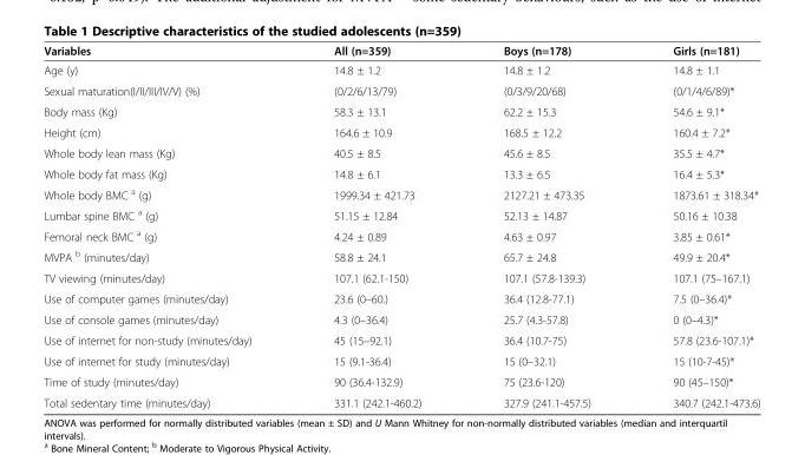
<table><thead><tr><td>Variables</td><td>All (n=359)</td><td>Boys (n=178)</td><td>Girls (n=181)</td></tr></thead><tbody><tr><td>Age (y)</td><td>14.8 ± 1.2</td><td>14.8 ± 1.2</td><td>14.8 ± 1.1</td></tr><tr><td>Sexual maturation(I/II/III/IV/V) (%)</td><td>(0/2/6/13/79)</td><td>(0/3/9/20/68)</td><td>(0/1/4/6/89)*</td></tr><tr><td>Body mass (Kg)</td><td>58.3 ± 13.1</td><td>62.2 ± 15.3</td><td>54.6 ± 9.1*</td></tr><tr><td>Height (cm)</td><td>164.6 ± 10.9</td><td>168.5 ± 12.2</td><td>160.4 ± 7.2*</td></tr><tr><td>Whole body lean mass (Kg)</td><td>40.5 ± 8.5</td><td>45.6 ± 8.5</td><td>35.5 ± 4.7*</td></tr><tr><td>Whole body fat mass (Kg)</td><td>14.8 ± 6.1</td><td>13.3 ± 6.5</td><td>16.4 ± 5.3*</td></tr><tr><td>Whole body BMC <sup>a</sup> (g)</td><td>1999.34 ± 421.73</td><td>2127.21 ± 473.35</td><td>1873.61 ± 318.34*</td></tr><tr><td>Lumbar spine BMC <sup>a</sup> (g)</td><td>51.15 ± 12.84</td><td>52.13 ± 14.87</td><td>50.16 ± 10.38</td></tr><tr><td>Femoral neck BMC <sup>a</sup> (g)</td><td>4.24 ± 0.89</td><td>4.63 ± 0.97</td><td>3.85 ± 0.61*</td></tr><tr><td>MVPA <sup>b</sup> (minutes/day)</td><td>58.8 ± 24.1</td><td>65.7 ± 24.8</td><td>49.9 ± 20.4*</td></tr><tr><td>TV viewing (minutes/day)</td><td>107.1 (62.1-150)</td><td>107.1 (57.8-139.3)</td><td>107.1 (75–167.1)</td></tr><tr><td>Use of computer games (minutes/day)</td><td>23.6 (0–60.)</td><td>36.4 (12.8-77.1)</td><td>7.5 (0–36.4)*</td></tr><tr><td>Use of console games (minutes/day)</td><td>4.3 (0–36.4)</td><td>25.7 (4.3-57.8)</td><td>0 (0–4.3)*</td></tr><tr><td>Use of internet for non-study (minutes/day)</td><td>45 (15–92.1)</td><td>36.4 (10.7-75)</td><td>57.8 (23.6-107.1)*</td></tr><tr><td>Use of internet for study (minutes/day)</td><td>15 (9.1-36.4)</td><td>15 (0–32.1)</td><td>15 (10-7-45)*</td></tr><tr><td>Time of study (minutes/day)</td><td>90 (36.4-132.9)</td><td>75 (23.6-120)</td><td>90 (45–150)*</td></tr><tr><td>Total sedentary time (minutes/day)</td><td>331.1 (242.1-460.2)</td><td>327.9 (241.1-457.5)</td><td>340.7 (242.1-473.6)</td></tr></tbody></table>